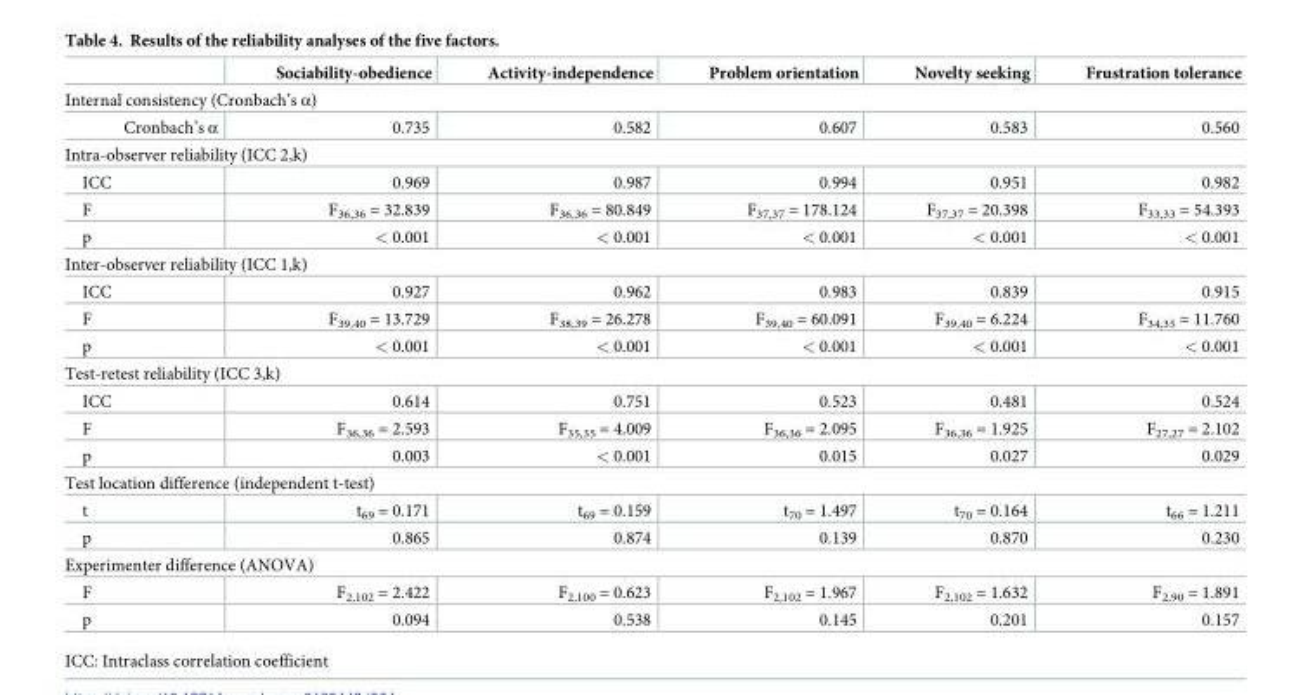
<table><thead><tr><td></td><td>Sociability-obedience</td><td>Activity-independence</td><td>Problem orientation</td><td>Novelty seeking</td><td>Frustration tolerance</td></tr></thead><tbody><tr><td colspan="6">Internal consistency (Cronbach’s α)</td></tr><tr><td>Cronbach’s α</td><td>0.735</td><td>0.582</td><td>0.607</td><td>0.583</td><td>0.560</td></tr><tr><td colspan="6">Intra-observer reliability (ICC 2,k)</td></tr><tr><td>ICC</td><td>0.969</td><td>0.987</td><td>0.994</td><td>0.951</td><td>0.982</td></tr><tr><td>F</td><td>F<sub>36,36</sub> = 32.839</td><td>F<sub>36,36</sub> = 80.849</td><td>F<sub>37,37</sub> = 178.124</td><td>F<sub>37,37</sub> = 20.398</td><td>F<sub>33,33</sub> = 54.393</td></tr><tr><td>p</td><td>&lt; 0.001</td><td>&lt; 0.001</td><td>&lt; 0.001</td><td>&lt; 0.001</td><td>&lt; 0.001</td></tr><tr><td colspan="6">Inter-observer reliability (ICC 1,k)</td></tr><tr><td>ICC</td><td>0.927</td><td>0.962</td><td>0.983</td><td>0.839</td><td>0.915</td></tr><tr><td>F</td><td>F<sub>39,40</sub> = 13.729</td><td>F<sub>38,39</sub> = 26.278</td><td>F<sub>39,40</sub> = 60.091</td><td>F<sub>39,40</sub> = 6.224</td><td>F<sub>34,35</sub> = 11.760</td></tr><tr><td>p</td><td>&lt; 0.001</td><td>&lt; 0.001</td><td>&lt; 0.001</td><td>&lt; 0.001</td><td>&lt; 0.001</td></tr><tr><td colspan="6">Test-retest reliability (ICC 3,k)</td></tr><tr><td>ICC</td><td>0.614</td><td>0.751</td><td>0.523</td><td>0.481</td><td>0.524</td></tr><tr><td>F</td><td>F<sub>36,36</sub> = 2.593</td><td>F<sub>35,35</sub> = 4.009</td><td>F<sub>36,36</sub> = 2.095</td><td>F<sub>36,36</sub> = 1.925</td><td>F<sub>27,27</sub> = 2.102</td></tr><tr><td>p</td><td>0.003</td><td>&lt; 0.001</td><td>0.015</td><td>0.027</td><td>0.029</td></tr><tr><td colspan="6">Test location difference (independent t-test)</td></tr><tr><td>t</td><td>t<sub>69</sub> = 0.171</td><td>t<sub>69</sub> = 0.159</td><td>t<sub>70</sub> = 1.497</td><td>t<sub>70</sub> = 0.164</td><td>t<sub>66</sub> = 1.211</td></tr><tr><td>p</td><td>0.865</td><td>0.874</td><td>0.139</td><td>0.870</td><td>0.230</td></tr><tr><td colspan="6">Experimenter difference (ANOVA)</td></tr><tr><td>F</td><td>F<sub>2,102</sub> = 2.422</td><td>F<sub>2,100</sub> = 0.623</td><td>F<sub>2,102</sub> = 1.967</td><td>F<sub>2,102</sub> = 1.632</td><td>F<sub>2,90</sub> = 1.891</td></tr><tr><td>p</td><td>0.094</td><td>0.538</td><td>0.145</td><td>0.201</td><td>0.157</td></tr></tbody></table>